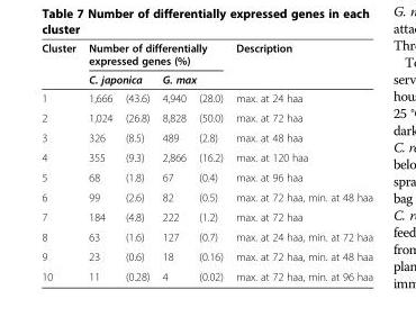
<table><thead><tr><td rowspan="3">Cluster 1</td><td colspan="4">Number of differentially expressed genes (%)</td><td rowspan="3">Description max. at 24 haa</td></tr><tr><td colspan="2">C. japonica</td><td colspan="2">G. max</td></tr><tr><td>1,666</td><td>(43.6)</td><td>4,940</td><td>(28.0)</td></tr></thead><tbody><tr><td>2</td><td>1,024</td><td>(26.8)</td><td>8,828</td><td>(50.0)</td><td>max. at 72 haa</td></tr><tr><td>3</td><td>326</td><td>(8.5)</td><td>489</td><td>(2.8)</td><td>max. at 48 haa</td></tr><tr><td>4</td><td>355</td><td>(9.3)</td><td>2,866</td><td>(16.2)</td><td>max. at 120 haa</td></tr><tr><td>5</td><td>68</td><td>(1.8)</td><td>67</td><td>(0.4)</td><td>max. at 96 haa</td></tr><tr><td>6</td><td>99</td><td>(2.6)</td><td>82</td><td>(0.5)</td><td>max. at 72 haa, min. at 48 haa</td></tr><tr><td>7</td><td>184</td><td>(4.8)</td><td>222</td><td>(1.2)</td><td>max. at 72 haa</td></tr><tr><td>8</td><td>63</td><td>(1.6)</td><td>127</td><td>(0.7)</td><td>max. at 24 haa, min. at 72 haa</td></tr><tr><td>9</td><td>23</td><td>(0.6)</td><td>18</td><td>(0.16)</td><td>max. at 72 haa, min. at 48 haa</td></tr><tr><td>10</td><td>11</td><td>(0.28)</td><td>4</td><td>(0.02)</td><td>max. at 72 haa, min. at 96 haa</td></tr></tbody></table>